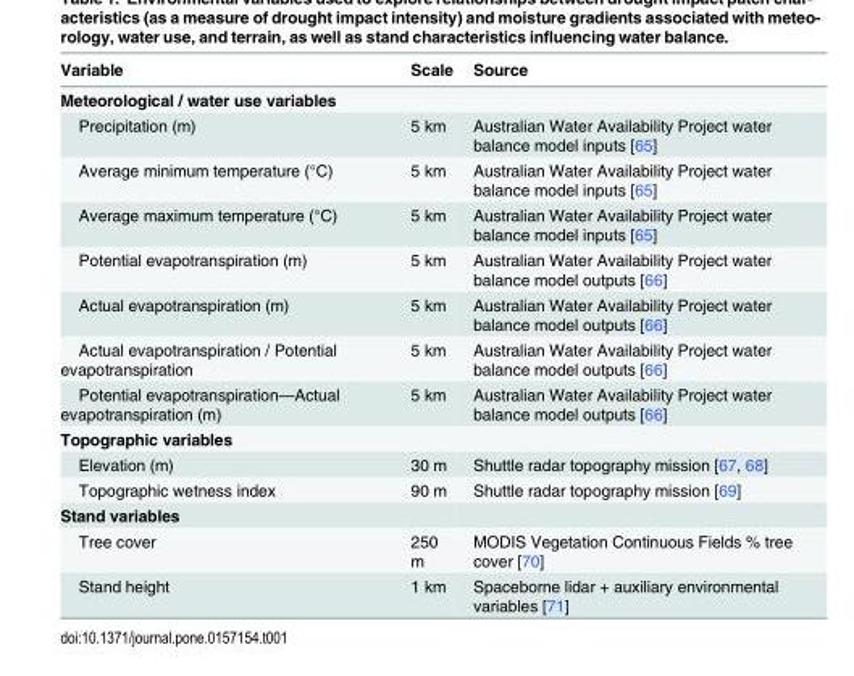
<table><thead><tr><td>Variable</td><td>Scale</td><td>Source</td></tr></thead><tbody><tr><td colspan="3">Meteorological / water use variables</td></tr><tr><td>Precipitation (m)</td><td>5 km</td><td>Australian Water Availability Project water balance model inputs [65]</td></tr><tr><td>Average minimum temperature (°C)</td><td>5 km</td><td>Australian Water Availability Project water balance model inputs [65]</td></tr><tr><td>Average maximum temperature (°C)</td><td>5 km</td><td>Australian Water Availability Project water balance model inputs [65]</td></tr><tr><td>Potential evapotranspiration (m)</td><td>5 km</td><td>Australian Water Availability Project water balance model outputs [66]</td></tr><tr><td>Actual evapotranspiration (m)</td><td>5 km</td><td>Australian Water Availability Project water balance model outputs [66]</td></tr><tr><td>Actual evapotranspiration / Potential evapotranspiration</td><td>5 km</td><td>Australian Water Availability Project water balance model outputs [66]</td></tr><tr><td>Potential evapotranspiration—Actual evapotranspiration (m)</td><td>5 km</td><td>Australian Water Availability Project water balance model outputs [66]</td></tr><tr><td colspan="3">Topographic variables</td></tr><tr><td>Elevation (m)</td><td>30 m</td><td>Shuttle radar topography mission [67, 68]</td></tr><tr><td>Topographic wetness index</td><td>90 m</td><td>Shuttle radar topography mission [69]</td></tr><tr><td colspan="3">Stand variables</td></tr><tr><td>Tree cover</td><td>250 m</td><td>MODIS Vegetation Continuous Fields % tree cover [70]</td></tr><tr><td>Stand height</td><td>1 km</td><td>Spaceborne lidar + auxiliary environmental variables [71]</td></tr></tbody></table>